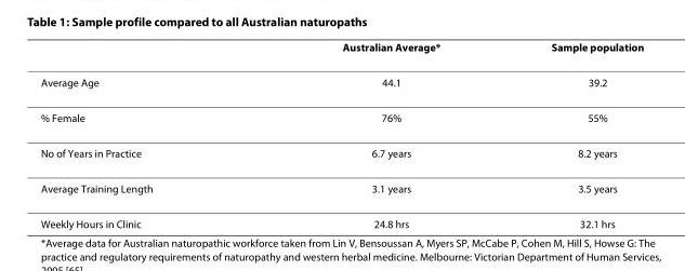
<table><thead><tr><td></td><td>Australian Average*</td><td>Sample population</td></tr></thead><tbody><tr><td>Average Age</td><td>44.1</td><td>39.2</td></tr><tr><td>% Female</td><td>76%</td><td>55%</td></tr><tr><td>No of Years in Practice</td><td>6.7 years</td><td>8.2 years</td></tr><tr><td>Average Training Length</td><td>3.1 years</td><td>3.5 years</td></tr><tr><td>Weekly Hours in Clinic</td><td>24.8 hrs</td><td>32.1 hrs</td></tr></tbody></table>